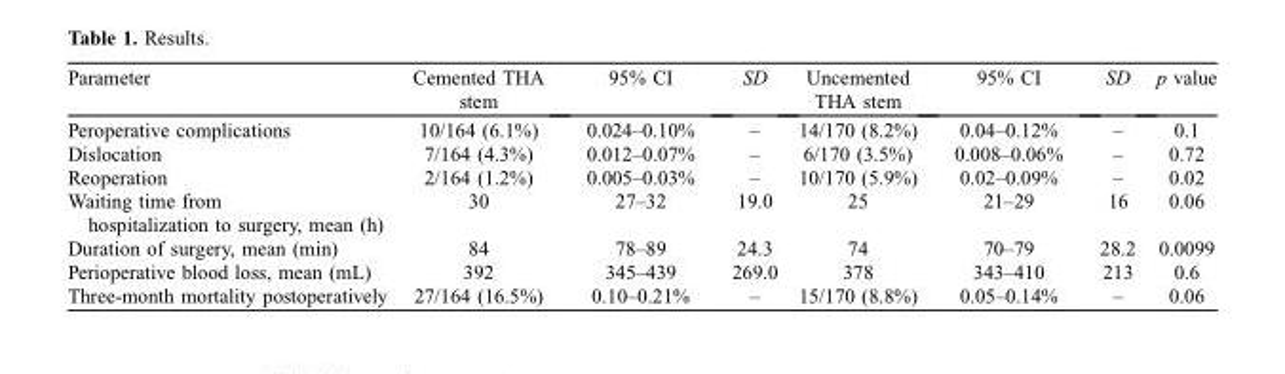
<table><thead><tr><td>Parameter</td><td>Cemented THA stem</td><td>95% CI</td><td>SD</td><td>Uncemented THA stem</td><td>95% CI</td><td>SD</td><td>p value</td></tr></thead><tbody><tr><td>Peroperative complications</td><td>10/164 (6.1%)</td><td>0.024–0.10%</td><td>–</td><td>14/170 (8.2%)</td><td>0.04–0.12%</td><td>–</td><td>0.1</td></tr><tr><td>Dislocation</td><td>7/164 (4.3%)</td><td>0.012–0.07%</td><td>–</td><td>6/170 (3.5%)</td><td>0.008–0.06%</td><td>–</td><td>0.72</td></tr><tr><td>Reoperation</td><td>2/164 (1.2%)</td><td>0.005–0.03%</td><td>–</td><td>10/170 (5.9%)</td><td>0.02–0.09%</td><td>–</td><td>0.02</td></tr><tr><td>Waiting time from hospitalization to surgery, mean (h)</td><td>30</td><td>27–32</td><td>19.0</td><td>25</td><td>21–29</td><td>16</td><td>0.06</td></tr><tr><td>Duration of surgery, mean (min)</td><td>84</td><td>78–89</td><td>24.3</td><td>74</td><td>70–79</td><td>28.2</td><td>0.0099</td></tr><tr><td>Perioperative blood loss, mean (mL)</td><td>392</td><td>345–439</td><td>269.0</td><td>378</td><td>343–410</td><td>213</td><td>0.6</td></tr><tr><td>Three-month mortality postoperatively</td><td>27/164 (16.5%)</td><td>0.10–0.21%</td><td>–</td><td>15/170 (8.8%)</td><td>0.05–0.14%</td><td>–</td><td>0.06</td></tr></tbody></table>